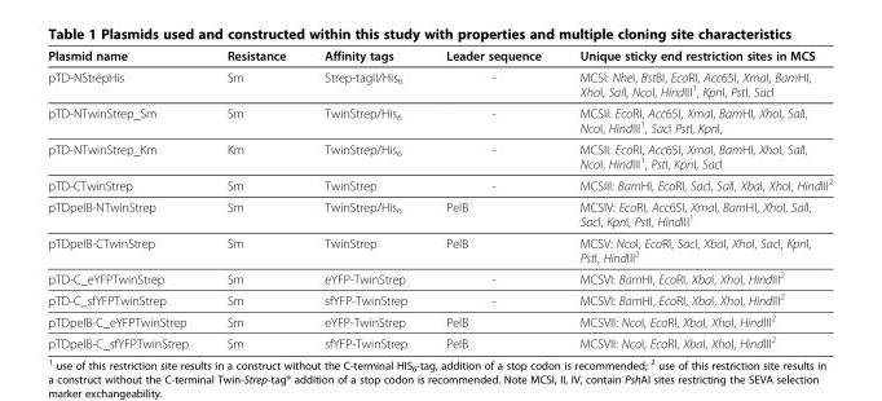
<table><thead><tr><td>Plasmid name</td><td>Resistance</td><td>Affinity tags</td><td>Leader sequence</td><td>Unique sticky end restriction sites in MCS</td></tr></thead><tbody><tr><td>pTD-NStrepHis</td><td>Sm</td><td>Strep-tagII/His<sub>6</sub></td><td>-</td><td>MCSI: NheI, BstBI, EcoRI, Acc65I, XmaI, BamHI, XhoI, SalI, NcoI, HindIII<sup>1</sup>, KpnI, PstI, SacI</td></tr><tr><td>pTD-NTwinStrep_Sm</td><td>Sm</td><td>TwinStrep/His<sub>6</sub></td><td>-</td><td>MCSII: EcoRI, Acc65I, XmaI, BamHI, XhoI, SalI, NcoI, HindIII<sup>1</sup>, SacI PstI, KpnI,</td></tr><tr><td>pTD-NTwinStrep_Km</td><td>Km</td><td>TwinStrep/His<sub>6</sub></td><td>-</td><td>MCSII: EcoRI, Acc65I, XmaI, BamHI, XhoI, SalI, NcoI, HindIII<sup>1</sup>, PstI, KpnI, SacI</td></tr><tr><td>pTD-CTwinStrep</td><td>Sm</td><td>TwinStrep</td><td>-</td><td>MCSIII: BamHI, EcoRI, SacI, SalI, XbaI, XhoI, HindIII<sup>2</sup></td></tr><tr><td>pTDpelB-NTwinStrep</td><td>Sm</td><td>TwinStrep/His<sub>6</sub></td><td>PelB</td><td>MCSIV: EcoRI, Acc65I, XmaI, BamHI, XhoI, SalI, SacI, KpnI, PstI, HindIII<sup>1</sup></td></tr><tr><td>pTDpelB-CTwinStrep</td><td>Sm</td><td>TwinStrep</td><td>PelB</td><td>MCSV: NcoI, EcoRI, SacI, XbaI, XhoI, SacI, KpnI, PstI, HindIII<sup>2</sup></td></tr><tr><td>pTD-C_eYFPTwinStrep</td><td>Sm</td><td>eYFP-TwinStrep</td><td>-</td><td>MCSVI: BamHI, EcoRI, XbaI, XhoI, HindIII<sup>2</sup></td></tr><tr><td>pTD-C_sfYFPTwinStrep</td><td>Sm</td><td>sfYFP-TwinStrep</td><td>-</td><td>MCSVI: BamHI, EcoRI, XbaI, XhoI, HindIII<sup>2</sup></td></tr><tr><td>pTDpelB-C_eYFPTwinStrep</td><td>Sm</td><td>eYFP-TwinStrep</td><td>PelB</td><td>MCSVII: NcoI, EcoRI, XbaI, XhoI, HindIII<sup>2</sup></td></tr><tr><td>pTDpelB-C_sfYFPTwinStrep</td><td>Sm</td><td>sfYFP-TwinStrep</td><td>PelB</td><td>MCSVII: NcoI, EcoRI, XbaI, XhoI, HindIII<sup>2</sup></td></tr></tbody></table>